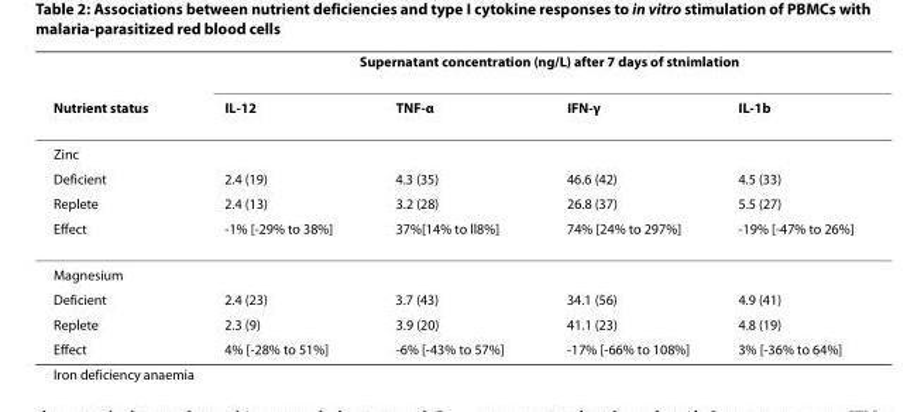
<table><thead><tr><td rowspan="2">Nutrient status</td><td colspan="4">Supernatant concentration (ng/L) after 7 days of stnimlation</td></tr><tr><td>IL-12</td><td>TNF-α</td><td>IFN-γ</td><td>IL-1b</td></tr></thead><tbody><tr><td colspan="5">Zinc</td></tr><tr><td>Deficient</td><td>2.4 (19)</td><td>4.3 (35)</td><td>46.6 (42)</td><td>4.5 (33)</td></tr><tr><td>Replete</td><td>2.4 (13)</td><td>3.2 (28)</td><td>26.8 (37)</td><td>5.5 (27)</td></tr><tr><td>Effect</td><td>-1% [-29% to 38%]</td><td>37%[14% to ll8%]</td><td>74% [24% to 297%]</td><td>-19% [-47% to 26%]</td></tr><tr><td colspan="5">Magnesium</td></tr><tr><td>Deficient</td><td>2.4 (23)</td><td>3.7 (43)</td><td>34.1 (56)</td><td>4.9 (41)</td></tr><tr><td>Replete</td><td>2.3 (9)</td><td>3.9 (20)</td><td>41.1 (23)</td><td>4.8 (19)</td></tr><tr><td>Effect</td><td>4% [-28% to 51%]</td><td>-6% [-43% to 57%]</td><td>-17% [-66% to 108%]</td><td>3% [-36% to 64%]</td></tr></tbody></table>